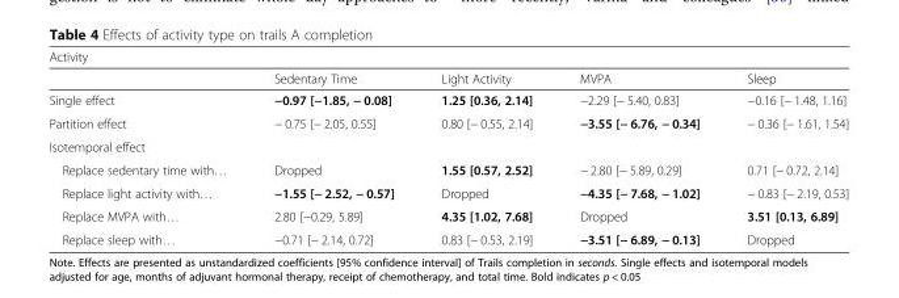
<table><thead><tr><td colspan="5">Activity</td></tr><tr><td></td><td>Sedentary Time</td><td>Light Activity</td><td>MVPA</td><td>Sleep</td></tr></thead><tbody><tr><td>Single effect</td><td>−0.97 [−1.85, − 0.08]</td><td>1.25 [0.36, 2.14]</td><td>−2.29 [− 5.40, 0.83]</td><td>−0.16 [− 1.48, 1.16]</td></tr><tr><td>Partition effect</td><td>− 0.75 [− 2.05, 0.55]</td><td>0.80 [− 0.55, 2.14]</td><td>−3.55 [− 6.76, − 0.34]</td><td>− 0.36 [− 1.61, 1.54]</td></tr><tr><td colspan="5">Isotemporal effect</td></tr><tr><td>Replace sedentary time with…</td><td>Dropped</td><td>1.55 [0.57, 2.52]</td><td>− 2.80 [− 5.89, 0.29]</td><td>0.71 [− 0.72, 2.14]</td></tr><tr><td>Replace light activity with…</td><td>−1.55 [− 2.52, − 0.57]</td><td>Dropped</td><td>−4.35 [− 7.68, − 1.02]</td><td>− 0.83 [− 2.19, 0.53]</td></tr><tr><td>Replace MVPA with…</td><td>2.80 [−0.29, 5.89]</td><td>4.35 [1.02, 7.68]</td><td>Dropped</td><td>3.51 [0.13, 6.89]</td></tr><tr><td>Replace sleep with…</td><td>−0.71 [− 2.14, 0.72]</td><td>0.83 [− 0.53, 2.19]</td><td>−3.51 [− 6.89, − 0.13]</td><td>Dropped</td></tr></tbody></table>